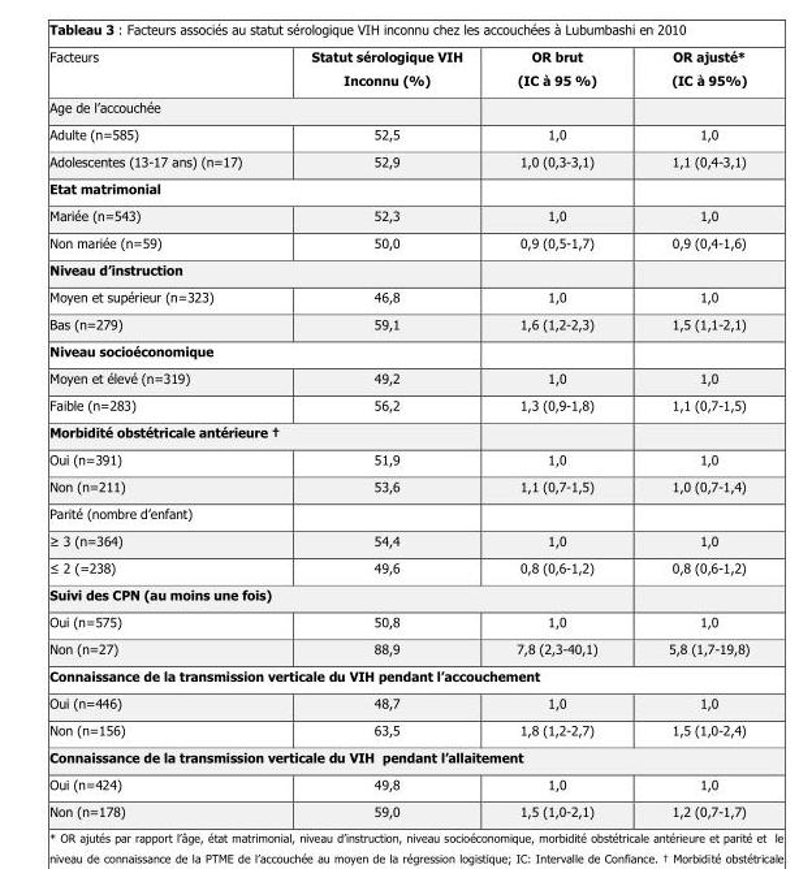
<table><thead><tr><td>Facteurs</td><td>Statut sérologique VIH Inconnu (%)</td><td>OR brut (IC à 95 %)</td><td>OR ajusté* (IC à 95%)</td></tr></thead><tbody><tr><td colspan="4">Age de l’accouchée</td></tr><tr><td>Adulte (n=585)</td><td>52,5</td><td>1,0</td><td>1,0</td></tr><tr><td>Adolescentes (13-17 ans) (n=17)</td><td>52,9</td><td>1,0 (0,3-3,1)</td><td>1,1 (0,4-3,1)</td></tr><tr><td colspan="4">Etat matrimonial</td></tr><tr><td>Mariée (n=543)</td><td>52,3</td><td>1,0</td><td>1,0</td></tr><tr><td>Non mariée (n=59)</td><td>50,0</td><td>0,9 (0,5-1,7)</td><td>0,9 (0,4-1,6)</td></tr><tr><td colspan="4">Niveau d’instruction</td></tr><tr><td>Moyen et supérieur (n=323)</td><td>46,8</td><td>1,0</td><td>1,0</td></tr><tr><td>Bas (n=279)</td><td>59,1</td><td>1,6 (1,2-2,3)</td><td>1,5 (1,1-2,1)</td></tr><tr><td colspan="4">Niveau socioéconomique</td></tr><tr><td>Moyen et élevé (n=319)</td><td>49,2</td><td>1,0</td><td>1,0</td></tr><tr><td>Faible (n=283)</td><td>56,2</td><td>1,3 (0,9-1,8)</td><td>1,1 (0,7-1,5)</td></tr><tr><td colspan="4">Morbidité obstétricale antérieure †</td></tr><tr><td>Oui (n=391)</td><td>51,9</td><td>1,0</td><td>1,0</td></tr><tr><td>Non (n=211)</td><td>53,6</td><td>1,1 (0,7-1,5)</td><td>1,0 (0,7-1,4)</td></tr><tr><td colspan="4">Parité (nombre d’enfant)</td></tr><tr><td>≥ 3 (n=364)</td><td>54,4</td><td>1,0</td><td>1,0</td></tr><tr><td>≤ 2 (=238)</td><td>49,6</td><td>0,8 (0,6-1,2)</td><td>0,8 (0,6-1,2)</td></tr><tr><td colspan="4">Suivi des CPN (au moins une fois)</td></tr><tr><td>Oui (n=575)</td><td>50,8</td><td>1,0</td><td>1,0</td></tr><tr><td>Non (n=27)</td><td>88,9</td><td>7,8 (2,3-40,1)</td><td>5,8 (1,7-19,8)</td></tr><tr><td colspan="4">Connaissance de la transmission verticale du VIH pendant l’accouchement</td></tr><tr><td>Oui (n=446)</td><td>48,7</td><td>1,0</td><td>1,0</td></tr><tr><td>Non (n=156)</td><td>63,5</td><td>1,8 (1,2-2,7)</td><td>1,5 (1,0-2,4)</td></tr><tr><td colspan="4">Connaissance de la transmission verticale du VIH pendant l’allaitement</td></tr><tr><td>Oui (n=424)</td><td>49,8</td><td>1,0</td><td>1,0</td></tr><tr><td>Non (n=178)</td><td>59,0</td><td>1,5 (1,0-2,1)</td><td>1,2 (0,7-1,7)</td></tr></tbody></table>